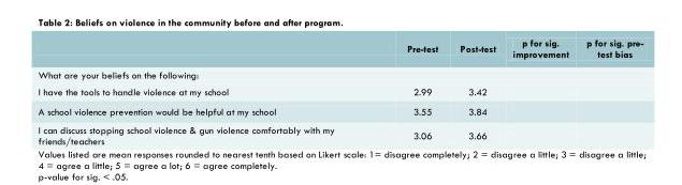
<table><thead><tr><td></td><td>Pre-test</td><td>Post-test</td><td>p for sig. improvement</td><td>p for sig. pre- test bias</td></tr></thead><tbody><tr><td colspan="5">What are your beliefs on the following:</td></tr><tr><td>I have the tools to handle violence at my school</td><td>2.99</td><td>3.42</td><td></td><td></td></tr><tr><td>A school violence prevention would be helpful at my school</td><td>3.55</td><td>3.84</td><td></td><td></td></tr><tr><td>I can discuss stopping school violence &amp; gun violence comfortably with my friends/teachers</td><td>3.06</td><td>3.66</td><td></td><td></td></tr></tbody></table>